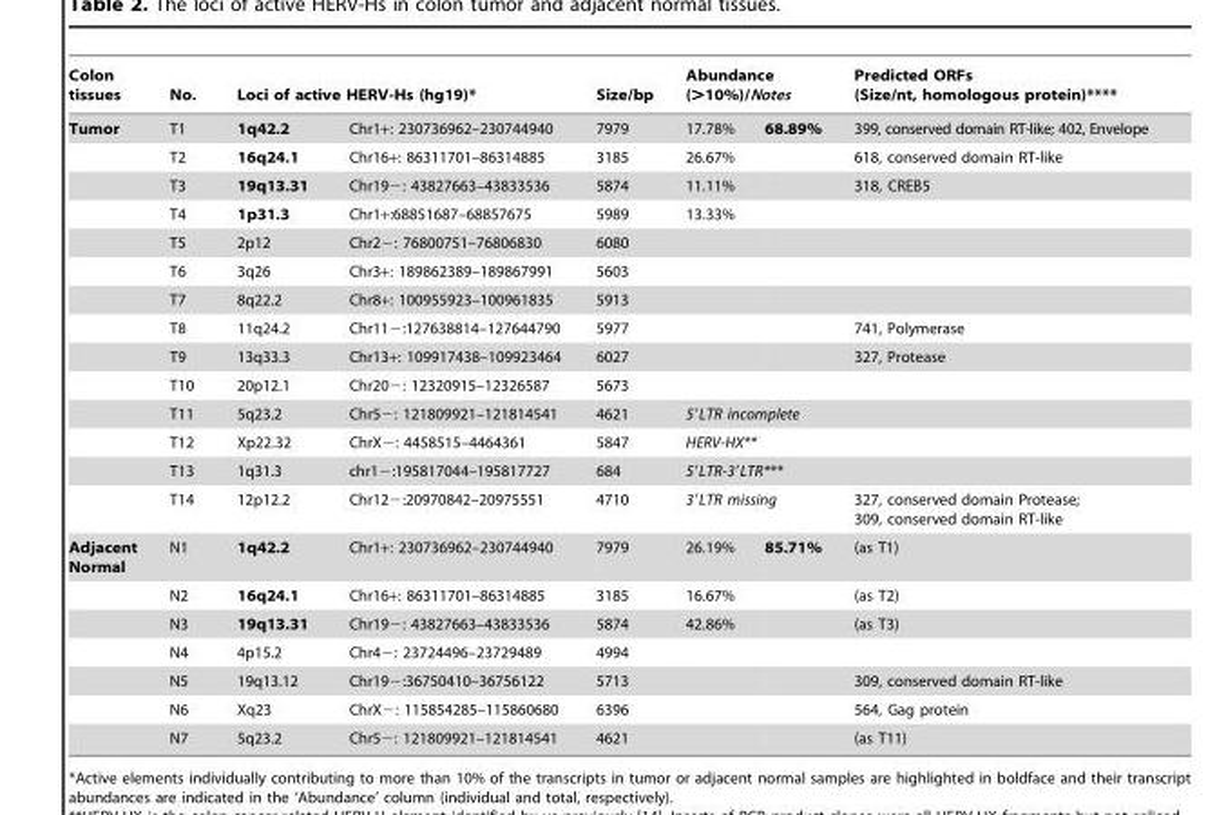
<table><thead><tr><td rowspan="2">Colon tissues Tumor</td><td rowspan="2">No. T1</td><td colspan="2">Loci of active HERV-Hs (hg19)*</td><td rowspan="2">Size/bp 7979</td><td colspan="2">Abundance (&gt;10%)/Notes</td><td rowspan="2">Predicted ORFs (Size/nt, homologous protein)**** 399, conserved domain RT-like; 402, Envelope</td></tr><tr><td>1q42.2</td><td>Chr1+: 230736962–230744940</td><td>17.78%</td><td>68.89%</td></tr></thead><tbody><tr><td></td><td>T2</td><td>16q24.1</td><td>Chr16+: 86311701–86314885</td><td>3185</td><td>26.67%</td><td></td><td>618, conserved domain RT-like</td></tr><tr><td></td><td>T3</td><td>19q13.31</td><td>Chr19−: 43827663–43833536</td><td>5874</td><td>11.11%</td><td></td><td>318, CREB5</td></tr><tr><td></td><td>T4</td><td>1p31.3</td><td>Chr1+:68851687–68857675</td><td>5989</td><td>13.33%</td><td></td><td></td></tr><tr><td></td><td>T5</td><td>2p12</td><td>Chr2−: 76800751–76806830</td><td>6080</td><td></td><td></td><td></td></tr><tr><td></td><td>T6</td><td>3q26</td><td>Chr3+: 189862389–189867991</td><td>5603</td><td></td><td></td><td></td></tr><tr><td></td><td>T7</td><td>8q22.2</td><td>Chr8+: 100955923–100961835</td><td>5913</td><td></td><td></td><td></td></tr><tr><td></td><td>T8</td><td>11q24.2</td><td>Chr11−:127638814–127644790</td><td>5977</td><td></td><td></td><td>741, Polymerase</td></tr><tr><td></td><td>T9</td><td>13q33.3</td><td>Chr13+: 109917438–109923464</td><td>6027</td><td></td><td></td><td>327, Protease</td></tr><tr><td></td><td>T10</td><td>20p12.1</td><td>Chr20−: 12320915–12326587</td><td>5673</td><td></td><td></td><td></td></tr><tr><td></td><td>T11</td><td>5q23.2</td><td>Chr5−: 121809921–121814541</td><td>4621</td><td colspan="2">5′LTR incomplete</td><td></td></tr><tr><td></td><td>T12</td><td>Xp22.32</td><td>ChrX−: 4458515–4464361</td><td>5847</td><td colspan="2">HERV-HX**</td><td></td></tr><tr><td></td><td>T13</td><td>1q31.3</td><td>chr1−:195817044–195817727</td><td>684</td><td colspan="2">5′LTR-3′LTR***</td><td></td></tr><tr><td></td><td>T14</td><td>12p12.2</td><td>Chr12−:20970842–20975551</td><td>4710</td><td colspan="2">3′LTR missing</td><td>327, conserved domain Protease; 309, conserved domain RT-like</td></tr><tr><td rowspan="7">Adjacent Normal</td><td>N1</td><td>1q42.2</td><td>Chr1+: 230736962–230744940</td><td>7979</td><td>26.19%</td><td>85.71%</td><td>(as T1)</td></tr><tr><td>N2</td><td>16q24.1</td><td>Chr16+: 86311701–86314885</td><td>3185</td><td>16.67%</td><td></td><td>(as T2)</td></tr><tr><td>N3</td><td>19q13.31</td><td>Chr19−: 43827663–43833536</td><td>5874</td><td>42.86%</td><td></td><td>(as T3)</td></tr><tr><td>N4</td><td>4p15.2</td><td>Chr4−: 23724496–23729489</td><td>4994</td><td></td><td></td><td></td></tr><tr><td>N5</td><td>19q13.12</td><td>Chr19−:36750410–36756122</td><td>5713</td><td></td><td></td><td>309, conserved domain RT-like</td></tr><tr><td>N6</td><td>Xq23</td><td>ChrX−: 115854285–115860680</td><td>6396</td><td></td><td></td><td>564, Gag protein</td></tr><tr><td>N7</td><td>5q23.2</td><td>Chr5−: 121809921–121814541</td><td>4621</td><td></td><td></td><td>(as T11)</td></tr></tbody></table>